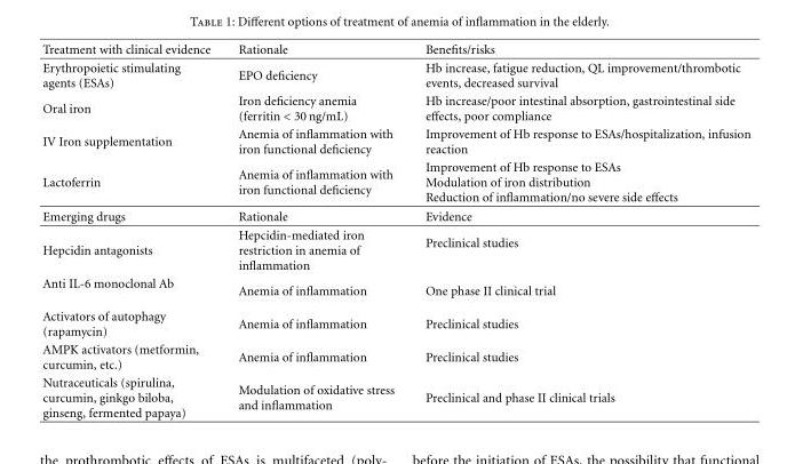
<table><thead><tr><td>Treatment with clinical evidence</td><td>Rationale</td><td>Benefits/risks</td></tr></thead><tbody><tr><td>Erythropoietic stimulating agents (ESAs)</td><td>EPO deficiency</td><td>Hb increase, fatigue reduction, QL improvement/thrombotic events, decreased survival</td></tr><tr><td>Oral iron</td><td>Iron deficiency anemia (ferritin &lt; 30 ng/mL)</td><td>Hb increase/poor intestinal absorption, gastrointestinal side effects, poor compliance</td></tr><tr><td>IV Iron supplementation</td><td>Anemia of inflammation with iron functional deficiency</td><td>Improvement of Hb response to ESAs/hospitalization, infusion reaction</td></tr><tr><td>Lactoferrin</td><td>Anemia of inflammation with iron functional deficiency</td><td>Improvement of Hb response to ESAs Modulation of iron distribution Reduction of inflammation/no severe side effects</td></tr><tr><td>Emerging drugs</td><td>Rationale</td><td>Evidence</td></tr><tr><td>Hepcidin antagonists</td><td>Hepcidin-mediated iron restriction in anemia of inflammation</td><td>Preclinical studies</td></tr><tr><td>Anti IL-6 monoclonal Ab</td><td>Anemia of inflammation</td><td>One phase II clinical trial</td></tr><tr><td>Activators of autophagy (rapamycin)</td><td>Anemia of inflammation</td><td>Preclinical studies</td></tr><tr><td>AMPK activators (metformin, curcumin, etc.)</td><td>Anemia of inflammation</td><td>Preclinical studies</td></tr><tr><td>Nutraceuticals (spirulina, curcumin, ginkgo biloba, ginseng, fermented papaya)</td><td>Modulation of oxidative stress and inflammation</td><td>Preclinical and phase II clinical trials</td></tr></tbody></table>